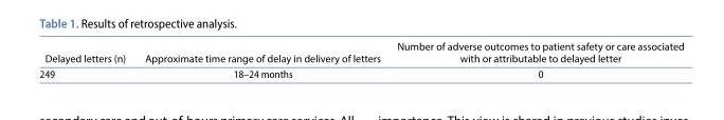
<table><thead><tr><td>Delayed letters (n)</td><td>Approximate time range of delay in delivery of letters</td><td>Number of adverse outcomes to patient safety or care associated with or attributable to delayed letter</td></tr></thead><tbody><tr><td>249</td><td>18–24 months</td><td>0</td></tr></tbody></table>